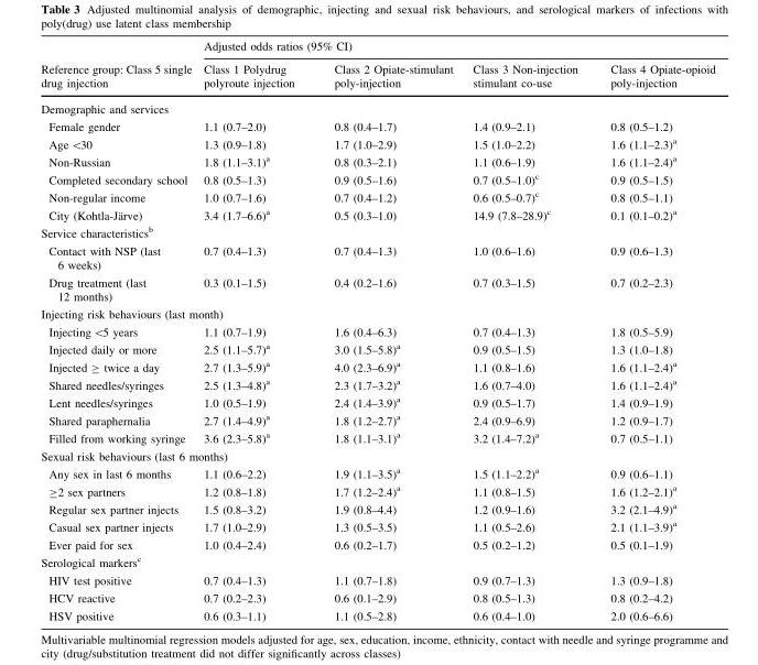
<table><thead><tr><td rowspan="2">Reference group: Class 5 single drug injection</td><td colspan="4">Adjusted odds ratios (95% CI)</td></tr><tr><td>Class 1 Polydrug polyroute injection</td><td>Class 2 Opiate-stimulant poly-injection</td><td>Class 3 Non-injection stimulant co-use</td><td>Class 4 Opiate-opioid poly-injection</td></tr></thead><tbody><tr><td colspan="5">Demographic and services</td></tr><tr><td>Female gender</td><td>1.1 (0.7–2.0)</td><td>0.8 (0.4–1.7)</td><td>1.4 (0.9–2.1)</td><td>0.8 (0.5–1.2)</td></tr><tr><td>Age &lt;30</td><td>1.3 (0.9–1.8)</td><td>1.7 (1.0–2.9)</td><td>1.5 (1.0–2.2)</td><td>1.6 (1.1–2.3)<sup>a</sup></td></tr><tr><td>Non-Russian</td><td>1.8 (1.1–3.1)<sup>a</sup></td><td>0.8 (0.3–2.1)</td><td>1.1 (0.6–1.9)</td><td>1.6 (1.1–2.4)<sup>a</sup></td></tr><tr><td>Completed secondary school</td><td>0.8 (0.5–1.3)</td><td>0.9 (0.5–1.6)</td><td>0.7 (0.5–1.0)<sup>c</sup></td><td>0.9 (0.5–1.5)</td></tr><tr><td>Non-regular income</td><td>1.0 (0.7–1.6)</td><td>0.7 (0.4–1.2)</td><td>0.6 (0.5–0.7)<sup>c</sup></td><td>0.8 (0.5–1.1)</td></tr><tr><td>City (Kohtla-Ja¨rve)</td><td>3.4 (1.7–6.6)<sup>a</sup></td><td>0.5 (0.3–1.0)</td><td>14.9 (7.8–28.9)<sup>c</sup></td><td>0.1 (0.1–0.2)<sup>a</sup></td></tr><tr><td colspan="5">Service characteristics<sup>b</sup></td></tr><tr><td>Contact with NSP (last 6 weeks)</td><td>0.7 (0.4–1.3)</td><td>0.7 (0.4–1.3)</td><td>1.0 (0.6–1.6)</td><td>0.9 (0.6–1.3)</td></tr><tr><td>Drug treatment (last 12 months)</td><td>0.3 (0.1–1.5)</td><td>0.4 (0.2–1.6)</td><td>0.7 (0.3–1.5)</td><td>0.7 (0.2–2.3)</td></tr><tr><td colspan="5">Injecting risk behaviours (last month)</td></tr><tr><td>Injecting &lt;5 years</td><td>1.1 (0.7–1.9)</td><td>1.6 (0.4–6.3)</td><td>0.7 (0.4–1.3)</td><td>1.8 (0.5–5.9)</td></tr><tr><td>Injected daily or more</td><td>2.5 (1.1–5.7)<sup>a</sup></td><td>3.0 (1.5–5.8)<sup>a</sup></td><td>0.9 (0.5–1.5)</td><td>1.3 (1.0–1.8)</td></tr><tr><td>Injected ≥ twice a day</td><td>2.7 (1.3–5.9)<sup>a</sup></td><td>4.0 (2.3–6.9)<sup>a</sup></td><td>1.1 (0.8–1.6)</td><td>1.6 (1.1–2.4)<sup>a</sup></td></tr><tr><td>Shared needles/syringes</td><td>2.5 (1.3–4.8)<sup>a</sup></td><td>2.3 (1.7–3.2)<sup>a</sup></td><td>1.6 (0.7–4.0)</td><td>1.6 (1.1–2.4)<sup>a</sup></td></tr><tr><td>Lent needles/syringes</td><td>1.0 (0.5–1.9)</td><td>2.4 (1.4–3.9)<sup>a</sup></td><td>0.9 (0.5–1.7)</td><td>1.4 (0.9–1.9)</td></tr><tr><td>Shared paraphernalia</td><td>2.7 (1.4–4.9)<sup>a</sup></td><td>1.8 (1.2–2.7)<sup>a</sup></td><td>2.4 (0.9–6.9)</td><td>1.2 (0.9–1.7)</td></tr><tr><td>Filled from working syringe</td><td>3.6 (2.3–5.8)<sup>a</sup></td><td>1.8 (1.1–3.1)<sup>a</sup></td><td>3.2 (1.4–7.2)<sup>a</sup></td><td>0.7 (0.5–1.1)</td></tr><tr><td colspan="5">Sexual risk behaviours (last 6 months)</td></tr><tr><td>Any sex in last 6 months</td><td>1.1 (0.6–2.2)</td><td>1.9 (1.1–3.5)<sup>a</sup></td><td>1.5 (1.1–2.2)<sup>a</sup></td><td>0.9 (0.6–1.1)</td></tr><tr><td>≥2 sex partners</td><td>1.2 (0.8–1.8)</td><td>1.7 (1.2–2.4)<sup>a</sup></td><td>1.1 (0.8–1.5)</td><td>1.6 (1.2–2.1)<sup>a</sup></td></tr><tr><td>Regular sex partner injects</td><td>1.5 (0.8–3.2)</td><td>1.9 (0.8–4.4)</td><td>1.2 (0.9–1.6)</td><td>3.2 (2.1–4.9)<sup>a</sup></td></tr><tr><td>Casual sex partner injects</td><td>1.7 (1.0–2.9)</td><td>1.3 (0.5–3.5)</td><td>1.1 (0.5–2.6)</td><td>2.1 (1.1–3.9)<sup>a</sup></td></tr><tr><td>Ever paid for sex</td><td>1.0 (0.4–2.4)</td><td>0.6 (0.2–1.7)</td><td>0.5 (0.2–1.2)</td><td>0.5 (0.1–1.9)</td></tr><tr><td colspan="5">Serological markers<sup>c</sup></td></tr><tr><td>HIV test positive</td><td>0.7 (0.4–1.3)</td><td>1.1 (0.7–1.8)</td><td>0.9 (0.7–1.3)</td><td>1.3 (0.9–1.8)</td></tr><tr><td>HCV reactive</td><td>0.7 (0.2–2.3)</td><td>0.6 (0.1–2.9)</td><td>0.8 (0.5–1.3)</td><td>0.8 (0.2–4.2)</td></tr><tr><td>HSV positive</td><td>0.6 (0.3–1.1)</td><td>1.1 (0.5–2.8)</td><td>0.6 (0.4–1.0)</td><td>2.0 (0.6–6.6)</td></tr></tbody></table>